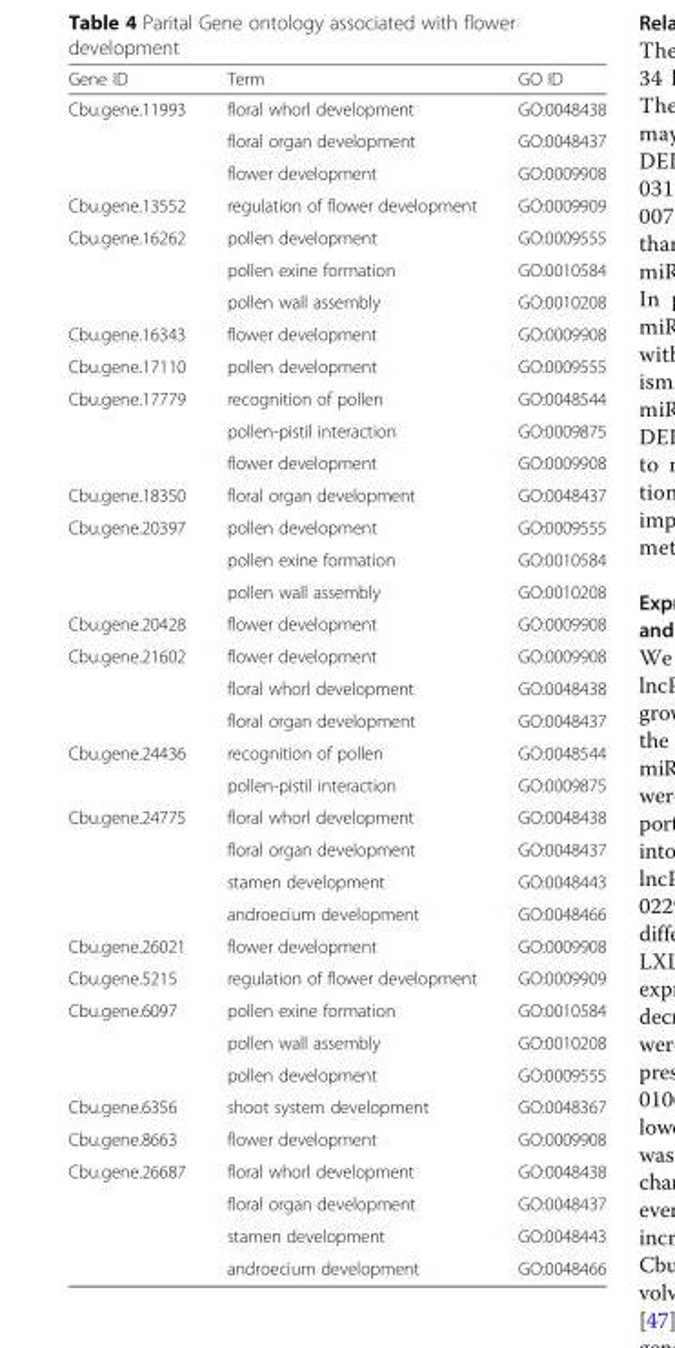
<table><thead><tr><td>Gene ID</td><td>Term</td><td>GO ID</td></tr></thead><tbody><tr><td rowspan="3">Cbu.gene.11993</td><td>floral whorl development</td><td>GO:0048438</td></tr><tr><td>floral organ development</td><td>GO:0048437</td></tr><tr><td>flower development</td><td>GO:0009908</td></tr><tr><td>Cbu.gene.13552</td><td>regulation of flower development</td><td>GO:0009909</td></tr><tr><td rowspan="3">Cbu.gene.16262</td><td>pollen development</td><td>GO:0009555</td></tr><tr><td>pollen exine formation</td><td>GO:0010584</td></tr><tr><td>pollen wall assembly</td><td>GO:0010208</td></tr><tr><td>Cbu.gene.16343</td><td>flower development</td><td>GO:0009908</td></tr><tr><td>Cbu.gene.17110</td><td>pollen development</td><td>GO:0009555</td></tr><tr><td rowspan="3">Cbu.gene.17779</td><td>recognition of pollen</td><td>GO:0048544</td></tr><tr><td>pollen-pistil interaction</td><td>GO:0009875</td></tr><tr><td>flower development</td><td>GO:0009908</td></tr><tr><td>Cbu.gene.18350</td><td>floral organ development</td><td>GO:0048437</td></tr><tr><td rowspan="3">Cbu.gene.20397</td><td>pollen development</td><td>GO:0009555</td></tr><tr><td>pollen exine formation</td><td>GO:0010584</td></tr><tr><td>pollen wall assembly</td><td>GO:0010208</td></tr><tr><td>Cbu.gene.20428</td><td>flower development</td><td>GO:0009908</td></tr><tr><td rowspan="3">Cbu.gene.21602</td><td>flower development</td><td>GO:0009908</td></tr><tr><td>floral whorl development</td><td>GO:0048438</td></tr><tr><td>floral organ development</td><td>GO:0048437</td></tr><tr><td rowspan="2">Cbu.gene.24436</td><td>recognition of pollen</td><td>GO:0048544</td></tr><tr><td>pollen-pistil interaction</td><td>GO:0009875</td></tr><tr><td rowspan="4">Cbu.gene.24775</td><td>floral whorl development</td><td>GO:0048438</td></tr><tr><td>floral organ development</td><td>GO:0048437</td></tr><tr><td>stamen development</td><td>GO:0048443</td></tr><tr><td>androecium development</td><td>GO:0048466</td></tr><tr><td>Cbu.gene.26021</td><td>flower development</td><td>GO:0009908</td></tr><tr><td>Cbu.gene.5215</td><td>regulation of flower development</td><td>GO:0009909</td></tr><tr><td rowspan="3">Cbu.gene.6097</td><td>pollen exine formation</td><td>GO:0010584</td></tr><tr><td>pollen wall assembly</td><td>GO:0010208</td></tr><tr><td>pollen development</td><td>GO:0009555</td></tr><tr><td>Cbu.gene.6356</td><td>shoot system development</td><td>GO:0048367</td></tr><tr><td>Cbu.gene.8663</td><td>flower development</td><td>GO:0009908</td></tr><tr><td rowspan="4">Cbu.gene.26687</td><td>floral whorl development</td><td>GO:0048438</td></tr><tr><td>floral organ development</td><td>GO:0048437</td></tr><tr><td>stamen development</td><td>GO:0048443</td></tr><tr><td>androecium development</td><td>GO:0048466</td></tr></tbody></table>